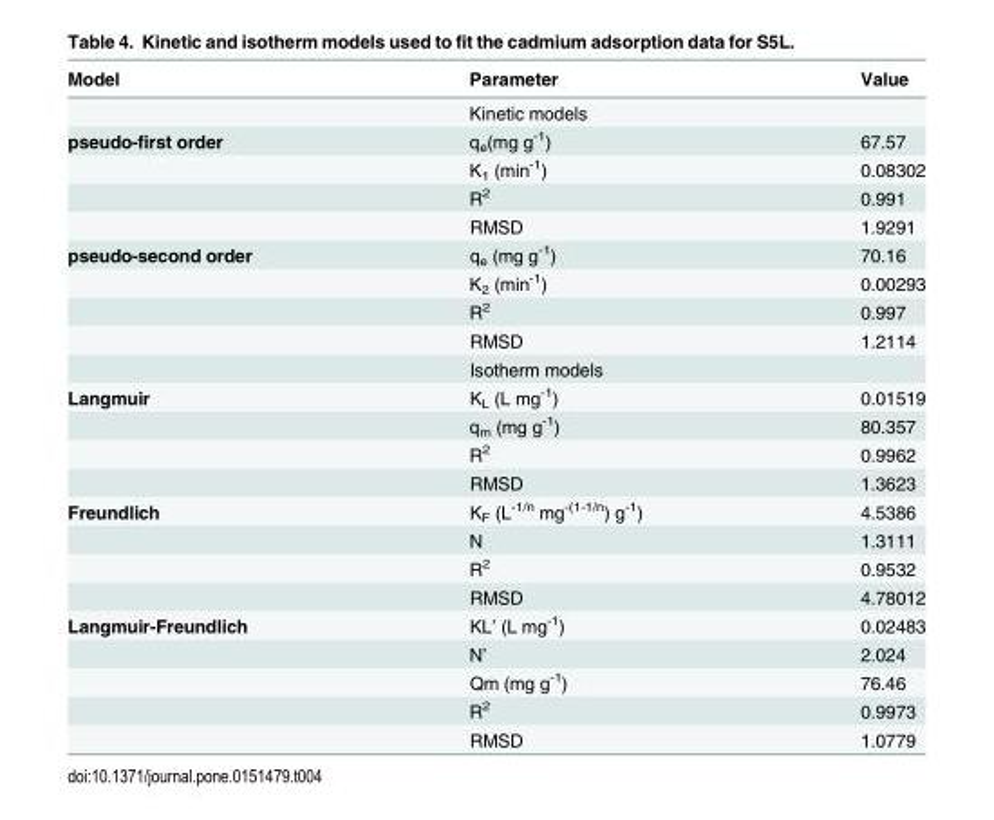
<table><thead><tr><td>Model</td><td>Parameter</td><td>Value</td></tr></thead><tbody><tr><td></td><td>Kinetic models</td><td></td></tr><tr><td rowspan="4">pseudo-first order</td><td>q<sub>e</sub>(mg g<sup>-1</sup>)</td><td>67.57</td></tr><tr><td>K<sub>1</sub> (min<sup>-1</sup>)</td><td>0.08302</td></tr><tr><td>R<sup>2</sup></td><td>0.991</td></tr><tr><td>RMSD</td><td>1.9291</td></tr><tr><td rowspan="5">pseudo-second order</td><td>q<sub>e</sub> (mg g<sup>-1</sup>)</td><td>70.16</td></tr><tr><td>K<sub>2</sub> (min<sup>-1</sup>)</td><td>0.00293</td></tr><tr><td>R<sup>2</sup></td><td>0.997</td></tr><tr><td>RMSD</td><td>1.2114</td></tr><tr><td>Isotherm models</td><td></td></tr><tr><td rowspan="4">Langmuir</td><td>K<sub>L</sub> (L mg<sup>-1</sup>)</td><td>0.01519</td></tr><tr><td>q<sub>m</sub> (mg g<sup>-1</sup>)</td><td>80.357</td></tr><tr><td>R<sup>2</sup></td><td>0.9962</td></tr><tr><td>RMSD</td><td>1.3623</td></tr><tr><td rowspan="4">Freundlich</td><td>K<sub>F</sub> (L<sup>-1/n</sup> mg<sup>-(1-1/n</sup>) g<sup>-1</sup>)</td><td>4.5386</td></tr><tr><td>N</td><td>1.3111</td></tr><tr><td>R<sup>2</sup></td><td>0.9532</td></tr><tr><td>RMSD</td><td>4.78012</td></tr><tr><td rowspan="5">Langmuir-Freundlich</td><td>KL’ (L mg<sup>-1</sup>)</td><td>0.02483</td></tr><tr><td>N’</td><td>2.024</td></tr><tr><td>Qm (mg g<sup>-1</sup>)</td><td>76.46</td></tr><tr><td>R<sup>2</sup></td><td>0.9973</td></tr><tr><td>RMSD</td><td>1.0779</td></tr></tbody></table>